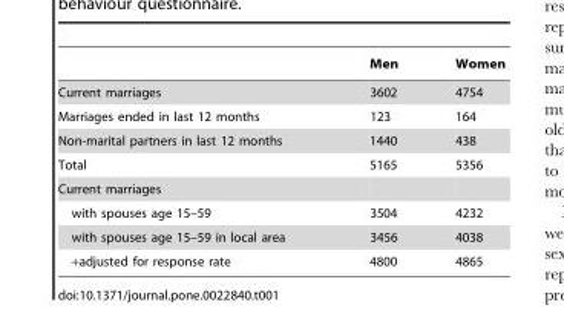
<table><thead><tr><td></td><td>Men</td><td>Women</td></tr></thead><tbody><tr><td>Current marriages</td><td>3602</td><td>4754</td></tr><tr><td>Marriages ended in last 12 months</td><td>123</td><td>164</td></tr><tr><td>Non-marital partners in last 12 months</td><td>1440</td><td>438</td></tr><tr><td>Total</td><td>5165</td><td>5356</td></tr><tr><td colspan="3">Current marriages</td></tr><tr><td>with spouses age 15–59</td><td>3504</td><td>4232</td></tr><tr><td>with spouses age 15–59 in local area</td><td>3456</td><td>4038</td></tr><tr><td>+adjusted for response rate</td><td>4800</td><td>4865</td></tr></tbody></table>